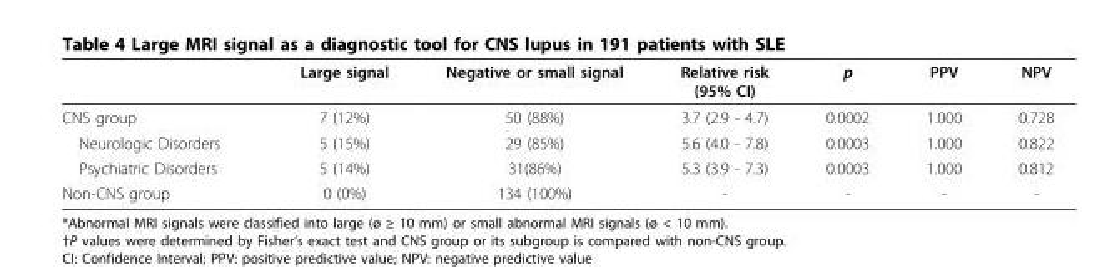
<table><thead><tr><td></td><td>Large signal</td><td>Negative or small signal</td><td>Relative risk (95% CI)</td><td>p</td><td>PPV</td><td>NPV</td></tr></thead><tbody><tr><td>CNS group</td><td>7 (12%)</td><td>50 (88%)</td><td>3.7 (2.9 - 4.7)</td><td>0.0002</td><td>1.000</td><td>0.728</td></tr><tr><td>Neurologic Disorders</td><td>5 (15%)</td><td>29 (85%)</td><td>5.6 (4.0 - 7.8)</td><td>0.0003</td><td>1.000</td><td>0.822</td></tr><tr><td>Psychiatric Disorders</td><td>5 (14%)</td><td>31(86%)</td><td>5.3 (3.9 - 7.3)</td><td>0.0003</td><td>1.000</td><td>0.812</td></tr><tr><td>Non-CNS group</td><td>0 (0%)</td><td>134 (100%)</td><td>-</td><td>-</td><td>-</td><td>-</td></tr></tbody></table>